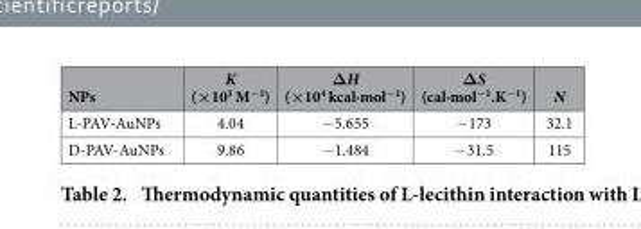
<table><thead><tr><td>NPs</td><td>K (× 10<sup>3</sup> M<sup>−1</sup>)</td><td>Δ H (× 10<sup>4</sup> kcal·mol<sup>−1</sup>)</td><td>Δ S (cal·mol<sup>−1</sup>.K<sup>−1</sup>)</td><td>N</td></tr></thead><tbody><tr><td>L-PAV-AuNPs</td><td>4.04</td><td>− 5.655</td><td>− 173</td><td>32.1</td></tr><tr><td>D-PAV-AuNPs</td><td>9.86</td><td>− 1.484</td><td>− 31.5</td><td>115</td></tr></tbody></table>